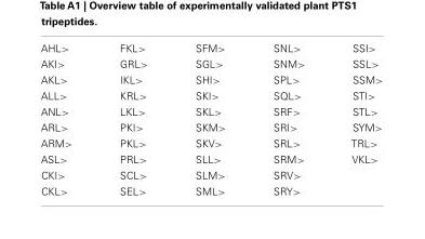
<table><tbody><tr><td>AHL&gt;</td><td>FKL&gt;</td><td>SFM&gt;</td><td>SNL&gt;</td><td>SSI&gt;</td></tr><tr><td>AKI&gt;</td><td>GRL&gt;</td><td>SGL&gt;</td><td>SNM&gt;</td><td>SSL&gt;</td></tr><tr><td>AKL&gt;</td><td>IKL&gt;</td><td>SHI&gt;</td><td>SPL&gt;</td><td>SSM&gt;</td></tr><tr><td>ALL&gt;</td><td>KRL&gt;</td><td>SKI&gt;</td><td>SQL&gt;</td><td>STI&gt;</td></tr><tr><td>ANL&gt;</td><td>LKL&gt;</td><td>SKL&gt;</td><td>SRF&gt;</td><td>STL&gt;</td></tr><tr><td>ARL&gt;</td><td>PKI&gt;</td><td>SKM&gt;</td><td>SRI&gt;</td><td>SYM&gt;</td></tr><tr><td>ARM&gt;</td><td>PKL&gt;</td><td>SKV&gt;</td><td>SRL&gt;</td><td>TRL&gt;</td></tr><tr><td>ASL&gt;</td><td>PRL&gt;</td><td>SLL&gt;</td><td>SRM&gt;</td><td>VKL&gt;</td></tr><tr><td>CKI&gt;</td><td>SCL&gt;</td><td>SLM&gt;</td><td>SRV&gt;</td><td></td></tr><tr><td>CKL&gt;</td><td>SEL&gt;</td><td>SML&gt;</td><td>SRY&gt;</td><td></td></tr></tbody></table>